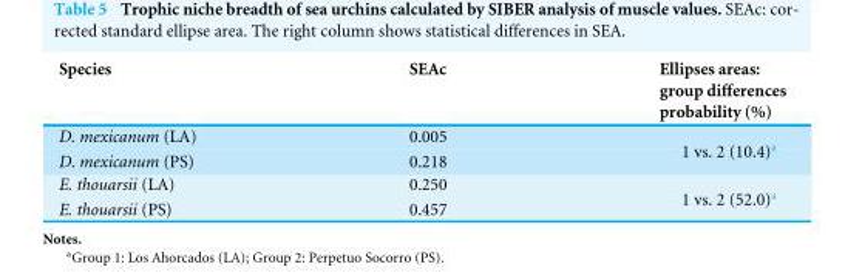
<table><thead><tr><td>Species</td><td>SEAc</td><td>Ellipses areas: group differences probability (%)</td></tr></thead><tbody><tr><td>D. mexicanum (LA)</td><td>0.005</td><td rowspan="2">1 vs. 2 (10.4)<sup>a</sup></td></tr><tr><td>D. mexicanum (PS)</td><td>0.218</td></tr><tr><td>E. thouarsii (LA)</td><td>0.250</td><td rowspan="2">1 vs. 2 (52.0)<sup>a</sup></td></tr><tr><td>E. thouarsii (PS)</td><td>0.457</td></tr></tbody></table>